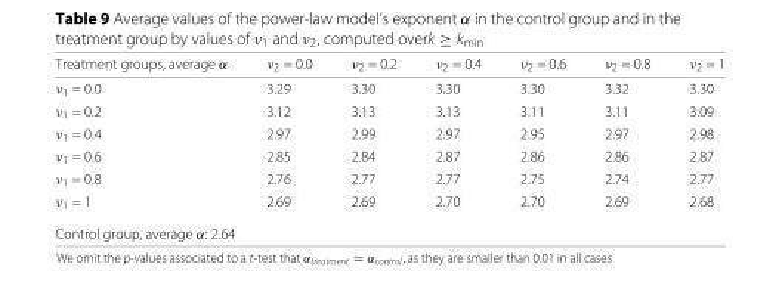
<table><thead><tr><td>Treatment groups, average α</td><td>ν<sub>2</sub> = 0.0</td><td>ν<sub>2</sub> = 0.2</td><td>ν<sub>2</sub> = 0.4</td><td>ν<sub>2</sub> = 0.6</td><td>ν<sub>2</sub> = 0.8</td><td>ν<sub>2</sub> = 1</td></tr></thead><tbody><tr><td>ν<sub>1</sub> = 0.0</td><td>3.29</td><td>3.30</td><td>3.30</td><td>3.30</td><td>3.32</td><td>3.30</td></tr><tr><td>ν<sub>1</sub> = 0.2</td><td>3.12</td><td>3.13</td><td>3.13</td><td>3.11</td><td>3.11</td><td>3.09</td></tr><tr><td>ν<sub>1</sub> = 0.4</td><td>2.97</td><td>2.99</td><td>2.97</td><td>2.95</td><td>2.97</td><td>2.98</td></tr><tr><td>ν<sub>1</sub> = 0.6</td><td>2.85</td><td>2.84</td><td>2.87</td><td>2.86</td><td>2.86</td><td>2.87</td></tr><tr><td>ν<sub>1</sub> = 0.8</td><td>2.76</td><td>2.77</td><td>2.77</td><td>2.75</td><td>2.74</td><td>2.77</td></tr><tr><td>ν<sub>1</sub> = 1</td><td>2.69</td><td>2.69</td><td>2.70</td><td>2.70</td><td>2.69</td><td>2.68</td></tr><tr><td colspan="7">Control group, average α: 2.64</td></tr></tbody></table>